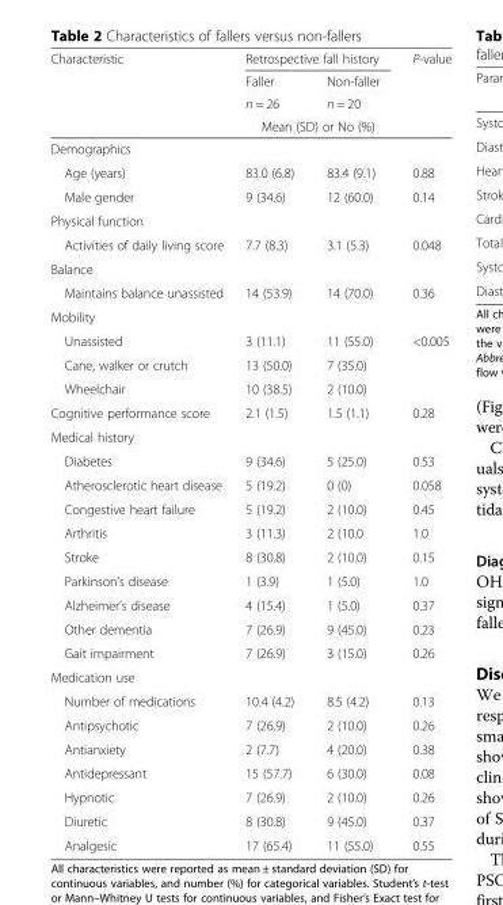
<table><thead><tr><td rowspan="4">Characteristic</td><td colspan="2">Retrospective fall history</td><td rowspan="4">P-value</td></tr><tr><td rowspan="2">Faller n = 26</td><td rowspan="2">Non-faller n = 20</td></tr><tr></tr><tr><td colspan="2">Mean (SD) or No (%)</td></tr></thead><tbody><tr><td colspan="4">Demographics</td></tr><tr><td>Age (years)</td><td>83.0 (6.8)</td><td>83.4 (9.1)</td><td>0.88</td></tr><tr><td>Male gender</td><td>9 (34.6)</td><td>12 (60.0)</td><td>0.14</td></tr><tr><td colspan="4">Physical function</td></tr><tr><td>Activities of daily living score</td><td>7.7 (8.3)</td><td>3.1 (5.3)</td><td>0.048</td></tr><tr><td colspan="4">Balance</td></tr><tr><td>Maintains balance unassisted</td><td>14 (53.9)</td><td>14 (70.0)</td><td>0.36</td></tr><tr><td colspan="4">Mobility</td></tr><tr><td>Unassisted</td><td>3 (11.1)</td><td>11 (55.0)</td><td>&lt;0.005</td></tr><tr><td>Cane, walker or crutch</td><td>13 (50.0)</td><td>7 (35.0)</td><td></td></tr><tr><td>Wheelchair</td><td>10 (38.5)</td><td>2 (10.0)</td><td></td></tr><tr><td>Cognitive performance score</td><td>2.1 (1.5)</td><td>1.5 (1.1)</td><td>0.28</td></tr><tr><td colspan="4">Medical history</td></tr><tr><td>Diabetes</td><td>9 (34.6)</td><td>5 (25.0)</td><td>0.53</td></tr><tr><td>Atherosclerotic heart disease</td><td>5 (19.2)</td><td>0 (0)</td><td>0.058</td></tr><tr><td>Congestive heart failure</td><td>5 (19.2)</td><td>2 (10.0)</td><td>0.45</td></tr><tr><td>Arthritis</td><td>3 (11.3)</td><td>2 (10.0</td><td>1.0</td></tr><tr><td>Stroke</td><td>8 (30.8)</td><td>2 (10.0)</td><td>0.15</td></tr><tr><td>Parkinson’s disease</td><td>1 (3.9)</td><td>1 (5.0)</td><td>1.0</td></tr><tr><td>Alzheimer’s disease</td><td>4 (15.4)</td><td>1 (5.0)</td><td>0.37</td></tr><tr><td>Other dementia</td><td>7 (26.9)</td><td>9 (45.0)</td><td>0.23</td></tr><tr><td>Gait impairment</td><td>7 (26.9)</td><td>3 (15.0)</td><td>0.26</td></tr><tr><td colspan="4">Medication use</td></tr><tr><td>Number of medications</td><td>10.4 (4.2)</td><td>8.5 (4.2)</td><td>0.13</td></tr><tr><td>Antipsychotic</td><td>7 (26.9)</td><td>2 (10.0)</td><td>0.26</td></tr><tr><td>Antianxiety</td><td>2 (7.7)</td><td>4 (20.0)</td><td>0.38</td></tr><tr><td>Antidepressant</td><td>15 (57.7)</td><td>6 (30.0)</td><td>0.08</td></tr><tr><td>Hypnotic</td><td>7 (26.9)</td><td>2 (10.0)</td><td>0.26</td></tr><tr><td>Diuretic</td><td>8 (30.8)</td><td>9 (45.0)</td><td>0.37</td></tr><tr><td>Analgesic</td><td>17 (65.4)</td><td>11 (55.0)</td><td>0.55</td></tr></tbody></table>